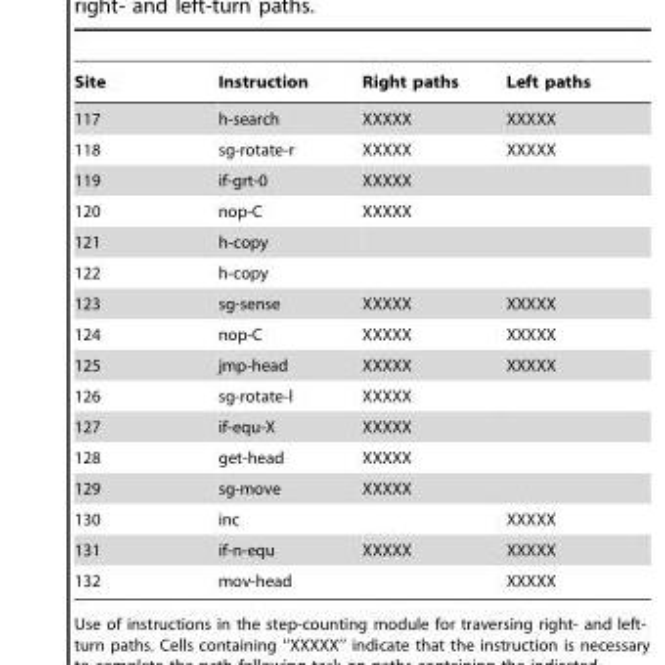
<table><thead><tr><td>Site</td><td>Instruction</td><td>Right paths</td><td>Left paths</td></tr></thead><tbody><tr><td>117</td><td>h-search</td><td>XXXXX</td><td>XXXXX</td></tr><tr><td>118</td><td>sg-rotate-r</td><td>XXXXX</td><td>XXXXX</td></tr><tr><td>119</td><td>if-grt-0</td><td>XXXXX</td><td></td></tr><tr><td>120</td><td>nop-C</td><td>XXXXX</td><td></td></tr><tr><td>121</td><td>h-copy</td><td></td><td></td></tr><tr><td>122</td><td>h-copy</td><td></td><td></td></tr><tr><td>123</td><td>sg-sense</td><td>XXXXX</td><td>XXXXX</td></tr><tr><td>124</td><td>nop-C</td><td>XXXXX</td><td>XXXXX</td></tr><tr><td>125</td><td>jmp-head</td><td>XXXXX</td><td>XXXXX</td></tr><tr><td>126</td><td>sg-rotate-l</td><td>XXXXX</td><td></td></tr><tr><td>127</td><td>if-equ-X</td><td>XXXXX</td><td></td></tr><tr><td>128</td><td>get-head</td><td>XXXXX</td><td></td></tr><tr><td>129</td><td>sg-move</td><td>XXXXX</td><td></td></tr><tr><td>130</td><td>inc</td><td></td><td>XXXXX</td></tr><tr><td>131</td><td>if-n-equ</td><td>XXXXX</td><td>XXXXX</td></tr><tr><td>132</td><td>mov-head</td><td></td><td>XXXXX</td></tr></tbody></table>